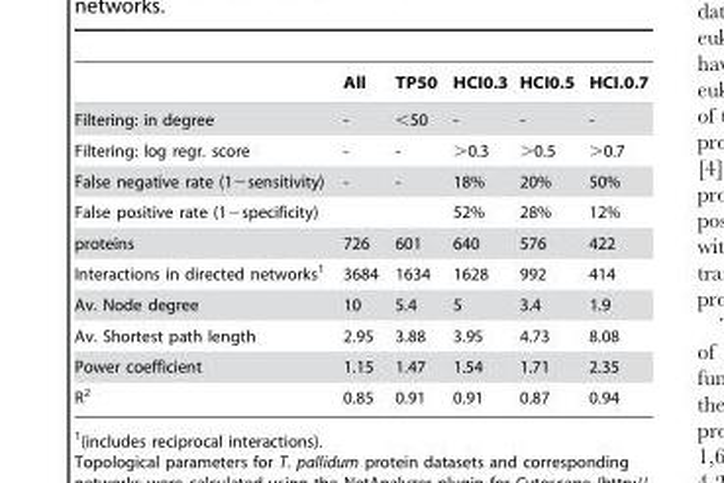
<table><thead><tr><td></td><td>All</td><td>TP50</td><td>HCI0.3</td><td>HCI0.5</td><td>HCI.0.7</td></tr></thead><tbody><tr><td>Filtering: in degree</td><td>-</td><td>&lt;50</td><td>-</td><td>-</td><td>-</td></tr><tr><td>Filtering: log regr. score</td><td>-</td><td>-</td><td>&gt;0.3</td><td>&gt;0.5</td><td>&gt;0.7</td></tr><tr><td>False negative rate (1−sensitivity)</td><td>-</td><td>-</td><td>18%</td><td>20%</td><td>50%</td></tr><tr><td>False positive rate (1−specificity)</td><td></td><td></td><td>52%</td><td>28%</td><td>12%</td></tr><tr><td>proteins</td><td>726</td><td>601</td><td>640</td><td>576</td><td>422</td></tr><tr><td>Interactions in directed networks<sup>1</sup></td><td>3684</td><td>1634</td><td>1628</td><td>992</td><td>414</td></tr><tr><td>Av. Node degree</td><td>10</td><td>5.4</td><td>5</td><td>3.4</td><td>1.9</td></tr><tr><td>Av. Shortest path length</td><td>2.95</td><td>3.88</td><td>3.95</td><td>4.73</td><td>8.08</td></tr><tr><td>Power coefficient</td><td>1.15</td><td>1.47</td><td>1.54</td><td>1.71</td><td>2.35</td></tr><tr><td>R<sup>2</sup></td><td>0.85</td><td>0.91</td><td>0.91</td><td>0.87</td><td>0.94</td></tr></tbody></table>